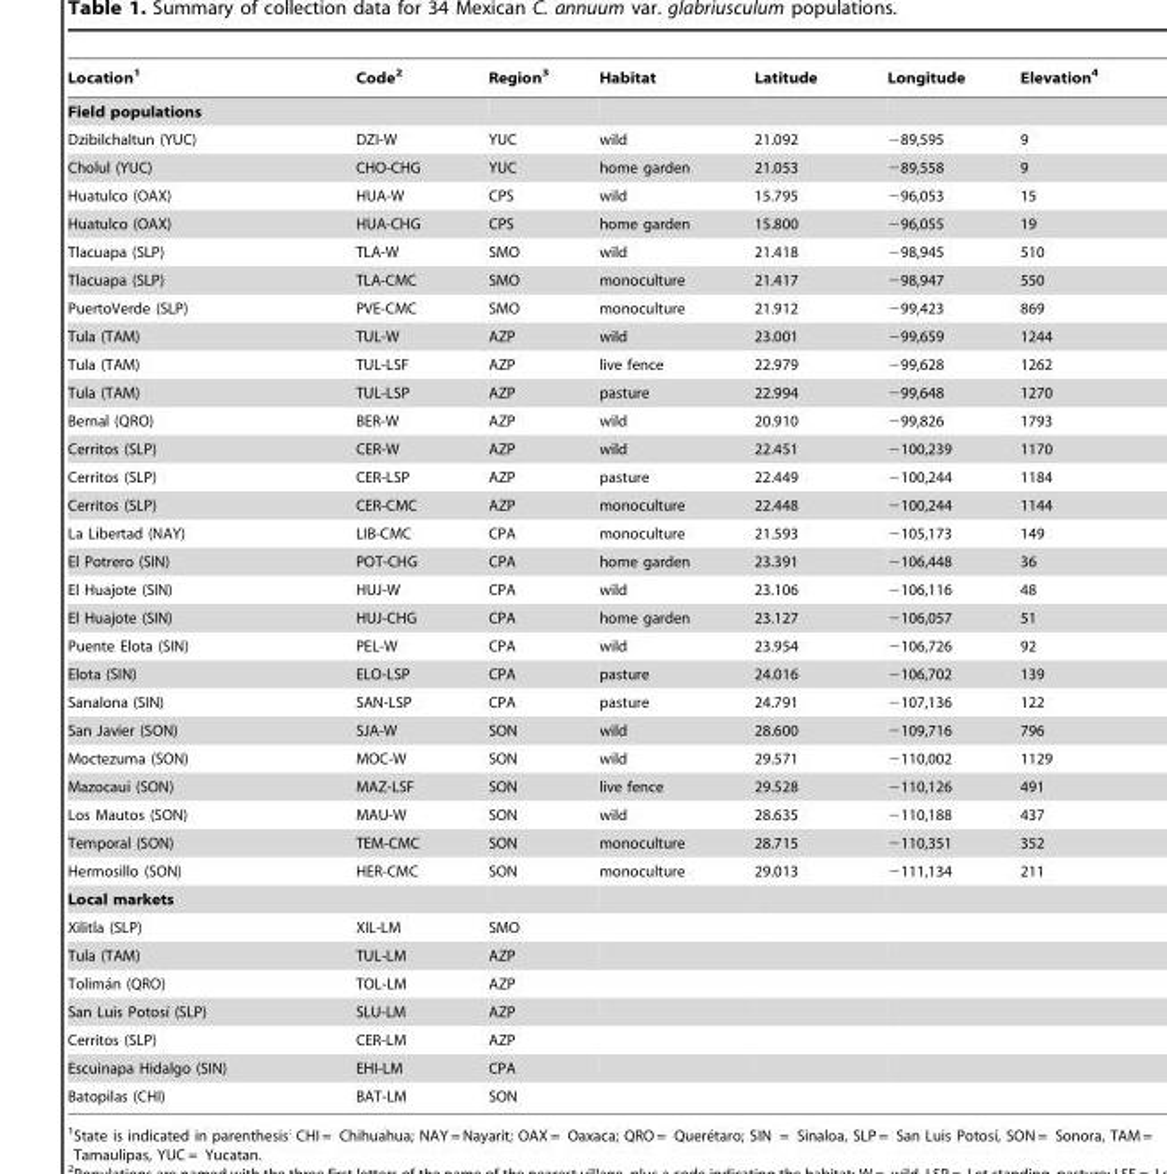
<table><thead><tr><td>Location<sup>1</sup></td><td>Code<sup>2</sup></td><td>Region<sup>3</sup></td><td>Habitat</td><td>Latitude</td><td>Longitude</td><td>Elevation<sup>4</sup></td></tr></thead><tbody><tr><td colspan="7">Field populations</td></tr><tr><td>Dzibilchaltun (YUC)</td><td>DZI-W</td><td>YUC</td><td>wild</td><td>21.092</td><td>−89,595</td><td>9</td></tr><tr><td>Cholul (YUC)</td><td>CHO-CHG</td><td>YUC</td><td>home garden</td><td>21.053</td><td>−89,558</td><td>9</td></tr><tr><td>Huatulco (OAX)</td><td>HUA-W</td><td>CPS</td><td>wild</td><td>15.795</td><td>−96,053</td><td>15</td></tr><tr><td>Huatulco (OAX)</td><td>HUA-CHG</td><td>CPS</td><td>home garden</td><td>15.800</td><td>−96,055</td><td>19</td></tr><tr><td>Tlacuapa (SLP)</td><td>TLA-W</td><td>SMO</td><td>wild</td><td>21.418</td><td>−98,945</td><td>510</td></tr><tr><td>Tlacuapa (SLP)</td><td>TLA-CMC</td><td>SMO</td><td>monoculture</td><td>21.417</td><td>−98,947</td><td>550</td></tr><tr><td>PuertoVerde (SLP)</td><td>PVE-CMC</td><td>SMO</td><td>monoculture</td><td>21.912</td><td>−99,423</td><td>869</td></tr><tr><td>Tula (TAM)</td><td>TUL-W</td><td>AZP</td><td>wild</td><td>23.001</td><td>−99,659</td><td>1244</td></tr><tr><td>Tula (TAM)</td><td>TUL-LSF</td><td>AZP</td><td>live fence</td><td>22.979</td><td>−99,628</td><td>1262</td></tr><tr><td>Tula (TAM)</td><td>TUL-LSP</td><td>AZP</td><td>pasture</td><td>22.994</td><td>−99,648</td><td>1270</td></tr><tr><td>Bernal (QRO)</td><td>BER-W</td><td>AZP</td><td>wild</td><td>20.910</td><td>−99,826</td><td>1793</td></tr><tr><td>Cerritos (SLP)</td><td>CER-W</td><td>AZP</td><td>wild</td><td>22.451</td><td>−100,239</td><td>1170</td></tr><tr><td>Cerritos (SLP)</td><td>CER-LSP</td><td>AZP</td><td>pasture</td><td>22.449</td><td>−100,244</td><td>1184</td></tr><tr><td>Cerritos (SLP)</td><td>CER-CMC</td><td>AZP</td><td>monoculture</td><td>22.448</td><td>−100,244</td><td>1144</td></tr><tr><td>La Libertad (NAY)</td><td>LIB-CMC</td><td>CPA</td><td>monoculture</td><td>21.593</td><td>−105,173</td><td>149</td></tr><tr><td>El Potrero (SIN)</td><td>POT-CHG</td><td>CPA</td><td>home garden</td><td>23.391</td><td>−106,448</td><td>36</td></tr><tr><td>El Huajote (SIN)</td><td>HUJ-W</td><td>CPA</td><td>wild</td><td>23.106</td><td>−106,116</td><td>48</td></tr><tr><td>El Huajote (SIN)</td><td>HUJ-CHG</td><td>CPA</td><td>home garden</td><td>23.127</td><td>−106,057</td><td>51</td></tr><tr><td>Puente Elota (SIN)</td><td>PEL-W</td><td>CPA</td><td>wild</td><td>23.954</td><td>−106,726</td><td>92</td></tr><tr><td>Elota (SIN)</td><td>ELO-LSP</td><td>CPA</td><td>pasture</td><td>24.016</td><td>−106,702</td><td>139</td></tr><tr><td>Sanalona (SIN)</td><td>SAN-LSP</td><td>CPA</td><td>pasture</td><td>24.791</td><td>−107,136</td><td>122</td></tr><tr><td>San Javier (SON)</td><td>SJA-W</td><td>SON</td><td>wild</td><td>28.600</td><td>−109,716</td><td>796</td></tr><tr><td>Moctezuma (SON)</td><td>MOC-W</td><td>SON</td><td>wild</td><td>29.571</td><td>−110,002</td><td>1129</td></tr><tr><td>Mazocaui (SON)</td><td>MAZ-LSF</td><td>SON</td><td>live fence</td><td>29.528</td><td>−110,126</td><td>491</td></tr><tr><td>Los Mautos (SON)</td><td>MAU-W</td><td>SON</td><td>wild</td><td>28.635</td><td>−110,188</td><td>437</td></tr><tr><td>Temporal (SON)</td><td>TEM-CMC</td><td>SON</td><td>monoculture</td><td>28.715</td><td>−110,351</td><td>352</td></tr><tr><td>Hermosillo (SON)</td><td>HER-CMC</td><td>SON</td><td>monoculture</td><td>29.013</td><td>−111,134</td><td>211</td></tr><tr><td colspan="7">Local markets</td></tr><tr><td>Xilitla (SLP)</td><td>XIL-LM</td><td>SMO</td><td></td><td></td><td></td><td></td></tr><tr><td>Tula (TAM)</td><td>TUL-LM</td><td>AZP</td><td></td><td></td><td></td><td></td></tr><tr><td>Tolima´n (QRO)</td><td>TOL-LM</td><td>AZP</td><td></td><td></td><td></td><td></td></tr><tr><td>San Luis Potosı´ (SLP)</td><td>SLU-LM</td><td>AZP</td><td></td><td></td><td></td><td></td></tr><tr><td>Cerritos (SLP)</td><td>CER-LM</td><td>AZP</td><td></td><td></td><td></td><td></td></tr><tr><td>Escuinapa Hidalgo (SIN)</td><td>EHI-LM</td><td>CPA</td><td></td><td></td><td></td><td></td></tr><tr><td>Batopilas (CHI)</td><td>BAT-LM</td><td>SON</td><td></td><td></td><td></td><td></td></tr></tbody></table>